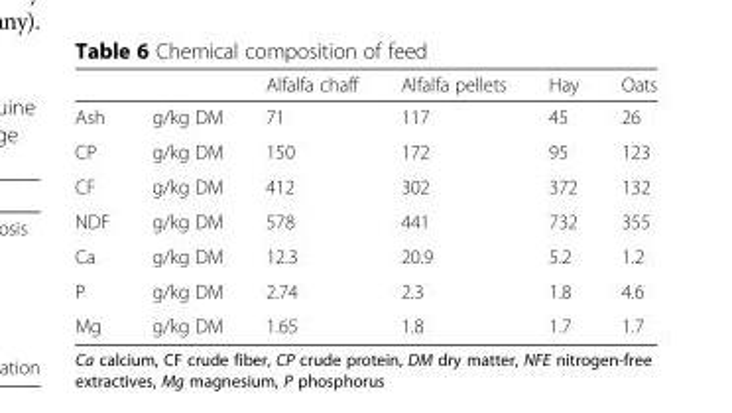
<table><thead><tr><td></td><td></td><td>Alfalfa chaff</td><td>Alfalfa pellets</td><td>Hay</td><td>Oats</td></tr></thead><tbody><tr><td>Ash</td><td>g/kg DM</td><td>71</td><td>117</td><td>45</td><td>26</td></tr><tr><td>CP</td><td>g/kg DM</td><td>150</td><td>172</td><td>95</td><td>123</td></tr><tr><td>CF</td><td>g/kg DM</td><td>412</td><td>302</td><td>372</td><td>132</td></tr><tr><td>NDF</td><td>g/kg DM</td><td>578</td><td>441</td><td>732</td><td>355</td></tr><tr><td>Ca</td><td>g/kg DM</td><td>12.3</td><td>20.9</td><td>5.2</td><td>1.2</td></tr><tr><td>P</td><td>g/kg DM</td><td>2.74</td><td>2.3</td><td>1.8</td><td>4.6</td></tr><tr><td>Mg</td><td>g/kg DM</td><td>1.65</td><td>1.8</td><td>1.7</td><td>1.7</td></tr></tbody></table>